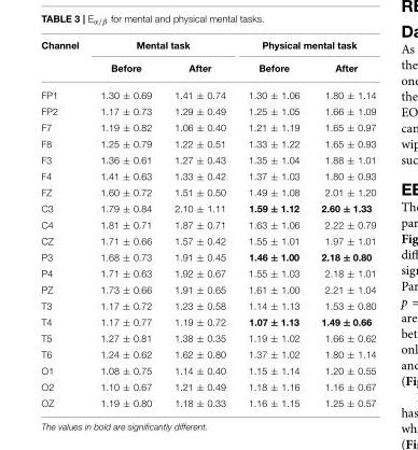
<table><thead><tr><td rowspan="2">Channel</td><td colspan="2">Mental task</td><td colspan="2">Physical mental task</td></tr><tr><td>Before</td><td>After</td><td>Before</td><td>After</td></tr></thead><tbody><tr><td>FP1</td><td>1.30 ± 0.69</td><td>1.41 ± 0.74</td><td>1.30 ± 1.06</td><td>1.80 ± 1.14</td></tr><tr><td>FP2</td><td>1.17 ± 0.73</td><td>1.29 ± 0.49</td><td>1.25 ± 1.05</td><td>1.66 ± 1.09</td></tr><tr><td>F7</td><td>1.19 ± 0.82</td><td>1.06 ± 0.40</td><td>1.21 ± 1.19</td><td>1.65 ± 0.97</td></tr><tr><td>F8</td><td>1.25 ± 0.79</td><td>1.22 ± 0.51</td><td>1.33 ± 1.22</td><td>1.65 ± 0.93</td></tr><tr><td>F3</td><td>1.36 ± 0.61</td><td>1.27 ± 0.43</td><td>1.35 ± 1.04</td><td>1.88 ± 1.01</td></tr><tr><td>F4</td><td>1.41 ± 0.63</td><td>1.33 ± 0.42</td><td>1.37 ± 1.03</td><td>1.80 ± 0.93</td></tr><tr><td>FZ</td><td>1.60 ± 0.72</td><td>1.51 ± 0.50</td><td>1.49 ± 1.08</td><td>2.01 ± 1.20</td></tr><tr><td>C3</td><td>1.79 ± 0.84</td><td>2.10 ± 1.11</td><td>1.59 ± 1.12</td><td>2.60 ± 1.33</td></tr><tr><td>C4</td><td>1.81 ± 0.71</td><td>1.87 ± 0.71</td><td>1.63 ± 1.06</td><td>2.22 ± 0.79</td></tr><tr><td>CZ</td><td>1.71 ± 0.66</td><td>1.57 ± 0.42</td><td>1.55 ± 1.01</td><td>1.97 ± 1.01</td></tr><tr><td>P3</td><td>1.68 ± 0.73</td><td>1.91 ± 0.45</td><td>1.46 ± 1.00</td><td>2.18 ± 0.80</td></tr><tr><td>P4</td><td>1.71 ± 0.63</td><td>1.92 ± 0.67</td><td>1.55 ± 1.03</td><td>2.18 ± 1.01</td></tr><tr><td>PZ</td><td>1.73 ± 0.66</td><td>1.91 ± 0.65</td><td>1.61 ± 1.00</td><td>2.21 ± 1.04</td></tr><tr><td>T3</td><td>1.17 ± 0.72</td><td>1.23 ± 0.58</td><td>1.14 ± 1.13</td><td>1.53 ± 0.80</td></tr><tr><td>T4</td><td>1.17 ± 0.77</td><td>1.19 ± 0.72</td><td>1.07 ± 1.13</td><td>1.49 ± 0.66</td></tr><tr><td>T5</td><td>1.27 ± 0.81</td><td>1.38 ± 0.35</td><td>1.19 ± 1.02</td><td>1.66 ± 0.62</td></tr><tr><td>T6</td><td>1.24 ± 0.62</td><td>1.62 ± 0.80</td><td>1.37 ± 1.02</td><td>1.80 ± 1.14</td></tr><tr><td>O1</td><td>1.08 ± 0.75</td><td>1.14 ± 0.40</td><td>1.15 ± 1.14</td><td>1.20 ± 0.55</td></tr><tr><td>O2</td><td>1.10 ± 0.67</td><td>1.21 ± 0.49</td><td>1.18 ± 1.16</td><td>1.16 ± 0.67</td></tr><tr><td>OZ</td><td>1.19 ± 0.80</td><td>1.18 ± 0.33</td><td>1.16 ± 1.15</td><td>1.25 ± 0.57</td></tr></tbody></table>